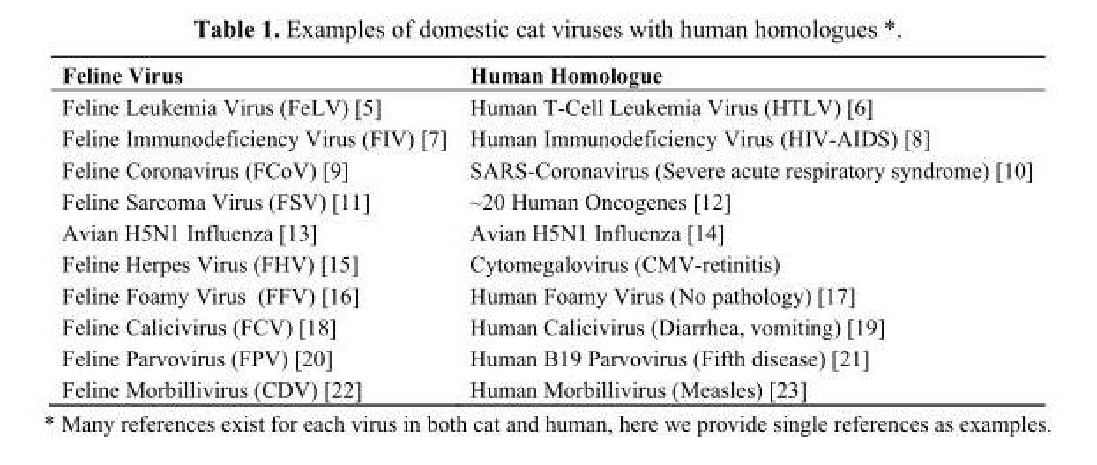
<table><thead><tr><td>Feline Virus</td><td>Human Homologue</td></tr></thead><tbody><tr><td>Feline Leukemia Virus (FeLV) [5]</td><td>Human T-Cell Leukemia Virus (HTLV) [6]</td></tr><tr><td>Feline Immunodeficiency Virus (FIV) [7]</td><td>Human Immunodeficiency Virus (HIV-AIDS) [8]</td></tr><tr><td>Feline Coronavirus (FCoV) [9]</td><td>SARS-Coronavirus (Severe acute respiratory syndrome) [10]</td></tr><tr><td>Feline Sarcoma Virus (FSV) [11]</td><td>~20 Human Oncogenes [12]</td></tr><tr><td>Avian H5N1 Influenza [13]</td><td>Avian H5N1 Influenza [14]</td></tr><tr><td>Feline Herpes Virus (FHV) [15]</td><td>Cytomegalovirus (CMV-retinitis)</td></tr><tr><td>Feline Foamy Virus (FFV) [16]</td><td>Human Foamy Virus (No pathology) [17]</td></tr><tr><td>Feline Calicivirus (FCV) [18]</td><td>Human Calicivirus (Diarrhea, vomiting) [19]</td></tr><tr><td>Feline Parvovirus (FPV) [20]</td><td>Human B19 Parvovirus (Fifth disease) [21]</td></tr><tr><td>Feline Morbillivirus (CDV) [22]</td><td>Human Morbillivirus (Measles) [23]</td></tr></tbody></table>